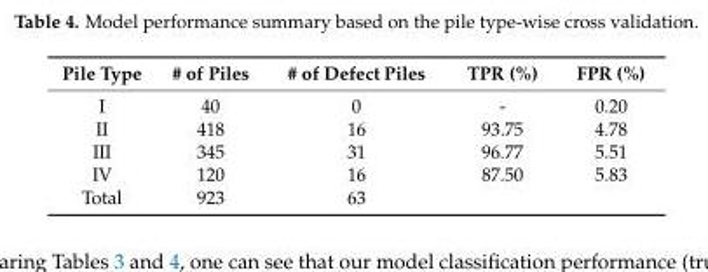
<table><thead><tr><td>Pile Type</td><td># of Piles</td><td># of Defect Piles</td><td>TPR (%)</td><td>FPR (%)</td></tr></thead><tbody><tr><td>I</td><td>40</td><td>0</td><td>-</td><td>0.20</td></tr><tr><td>II</td><td>418</td><td>16</td><td>93.75</td><td>4.78</td></tr><tr><td>III</td><td>345</td><td>31</td><td>96.77</td><td>5.51</td></tr><tr><td>IV</td><td>120</td><td>16</td><td>87.50</td><td>5.83</td></tr><tr><td>Total</td><td>923</td><td>63</td><td></td><td></td></tr></tbody></table>